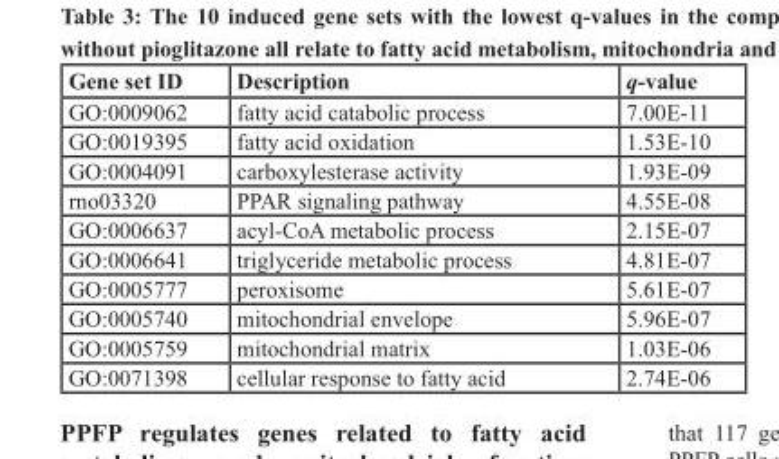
<table><thead><tr><td>Gene set ID</td><td>Description</td><td>q-value</td></tr></thead><tbody><tr><td>GO:0009062</td><td>fatty acid catabolic process</td><td>7.00E-11</td></tr><tr><td>GO:0019395</td><td>fatty acid oxidation</td><td>1.53E-10</td></tr><tr><td>GO:0004091</td><td>carboxylesterase activity</td><td>1.93E-09</td></tr><tr><td>rno03320</td><td>PPAR signaling pathway</td><td>4.55E-08</td></tr><tr><td>GO:0006637</td><td>acyl-CoA metabolic process</td><td>2.15E-07</td></tr><tr><td>GO:0006641</td><td>triglyceride metabolic process</td><td>4.81E-07</td></tr><tr><td>GO:0005777</td><td>peroxisome</td><td>5.61E-07</td></tr><tr><td>GO:0005740</td><td>mitochondrial envelope</td><td>5.96E-07</td></tr><tr><td>GO:0005759</td><td>mitochondrial matrix</td><td>1.03E-06</td></tr><tr><td>GO:0071398</td><td>cellular response to fatty acid</td><td>2.74E-06</td></tr></tbody></table>